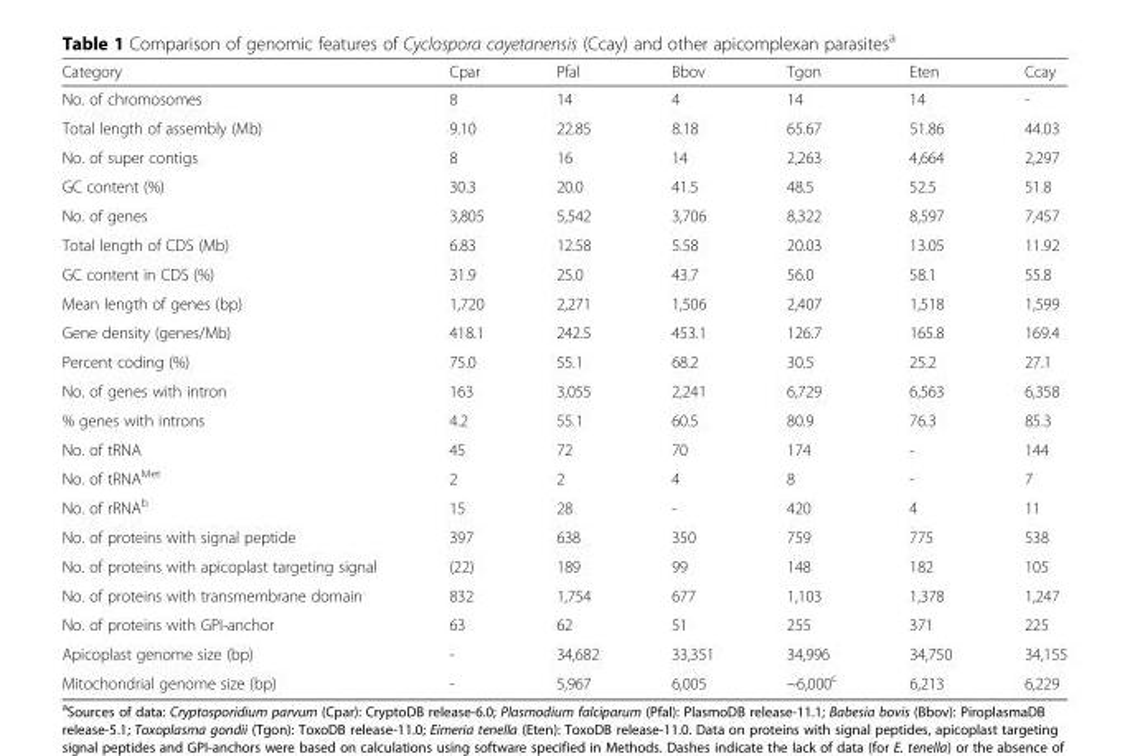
<table><thead><tr><td>Category</td><td>Cpar</td><td>Pfal</td><td>Bbov</td><td>Tgon</td><td>Eten</td><td>Ccay</td></tr></thead><tbody><tr><td>No. of chromosomes</td><td>8</td><td>14</td><td>4</td><td>14</td><td>14</td><td>-</td></tr><tr><td>Total length of assembly (Mb)</td><td>9.10</td><td>22.85</td><td>8.18</td><td>65.67</td><td>51.86</td><td>44.03</td></tr><tr><td>No. of super contigs</td><td>8</td><td>16</td><td>14</td><td>2,263</td><td>4,664</td><td>2,297</td></tr><tr><td>GC content (%)</td><td>30.3</td><td>20.0</td><td>41.5</td><td>48.5</td><td>52.5</td><td>51.8</td></tr><tr><td>No. of genes</td><td>3,805</td><td>5,542</td><td>3,706</td><td>8,322</td><td>8,597</td><td>7,457</td></tr><tr><td>Total length of CDS (Mb)</td><td>6.83</td><td>12.58</td><td>5.58</td><td>20.03</td><td>13.05</td><td>11.92</td></tr><tr><td>GC content in CDS (%)</td><td>31.9</td><td>25.0</td><td>43.7</td><td>56.0</td><td>58.1</td><td>55.8</td></tr><tr><td>Mean length of genes (bp)</td><td>1,720</td><td>2,271</td><td>1,506</td><td>2,407</td><td>1,518</td><td>1,599</td></tr><tr><td>Gene density (genes/Mb)</td><td>418.1</td><td>242.5</td><td>453.1</td><td>126.7</td><td>165.8</td><td>169.4</td></tr><tr><td>Percent coding (%)</td><td>75.0</td><td>55.1</td><td>68.2</td><td>30.5</td><td>25.2</td><td>27.1</td></tr><tr><td>No. of genes with intron</td><td>163</td><td>3,055</td><td>2,241</td><td>6,729</td><td>6,563</td><td>6,358</td></tr><tr><td>% genes with introns</td><td>4.2</td><td>55.1</td><td>60.5</td><td>80.9</td><td>76.3</td><td>85.3</td></tr><tr><td>No. of tRNA</td><td>45</td><td>72</td><td>70</td><td>174</td><td>-</td><td>144</td></tr><tr><td>No. of tRNA<sup>Met</sup></td><td>2</td><td>2</td><td>4</td><td>8</td><td>-</td><td>7</td></tr><tr><td>No. of rRNA<sup>b</sup></td><td>15</td><td>28</td><td>-</td><td>420</td><td>4</td><td>11</td></tr><tr><td>No. of proteins with signal peptide</td><td>397</td><td>638</td><td>350</td><td>759</td><td>775</td><td>538</td></tr><tr><td>No. of proteins with apicoplast targeting signal</td><td>(22)</td><td>189</td><td>99</td><td>148</td><td>182</td><td>105</td></tr><tr><td>No. of proteins with transmembrane domain</td><td>832</td><td>1,754</td><td>677</td><td>1,103</td><td>1,378</td><td>1,247</td></tr><tr><td>No. of proteins with GPI-anchor</td><td>63</td><td>62</td><td>51</td><td>255</td><td>371</td><td>225</td></tr><tr><td>Apicoplast genome size (bp)</td><td>-</td><td>34,682</td><td>33,351</td><td>34,996</td><td>34,750</td><td>34,155</td></tr><tr><td>Mitochondrial genome size (bp)</td><td>-</td><td>5,967</td><td>6,005</td><td>~6,000<sup>c</sup></td><td>6,213</td><td>6,229</td></tr></tbody></table>